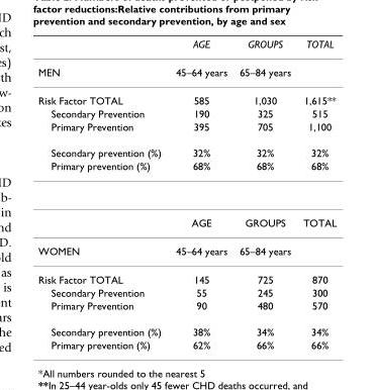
<table><thead><tr><td></td><td>AGE</td><td>GROUPS</td><td>TOTAL</td></tr></thead><tbody><tr><td>MEN</td><td>45–64 years</td><td>65–84 years</td><td></td></tr><tr><td>Risk Factor TOTAL</td><td>585</td><td>1,030</td><td>1,615**</td></tr><tr><td>Secondary Prevention</td><td>190</td><td>325</td><td>515</td></tr><tr><td>Primary Prevention</td><td>395</td><td>705</td><td>1,100</td></tr><tr><td>Secondary prevention (%)</td><td>32%</td><td>32%</td><td>32%</td></tr><tr><td rowspan="2">Primary prevention (%)</td><td>68%</td><td>68%</td><td>68%</td></tr><tr><td>AGE</td><td>GROUPS</td><td>TOTAL</td></tr><tr><td>WOMEN</td><td>45–64 years</td><td>65–84 years</td><td></td></tr><tr><td>Risk Factor TOTAL</td><td>145</td><td>725</td><td>870</td></tr><tr><td>Secondary Prevention</td><td>55</td><td>245</td><td>300</td></tr><tr><td>Primary Prevention</td><td>90</td><td>480</td><td>570</td></tr><tr><td>Secondary prevention (%)</td><td>38%</td><td>34%</td><td>34%</td></tr><tr><td>Primary prevention (%)</td><td>62%</td><td>66%</td><td>66%</td></tr></tbody></table>